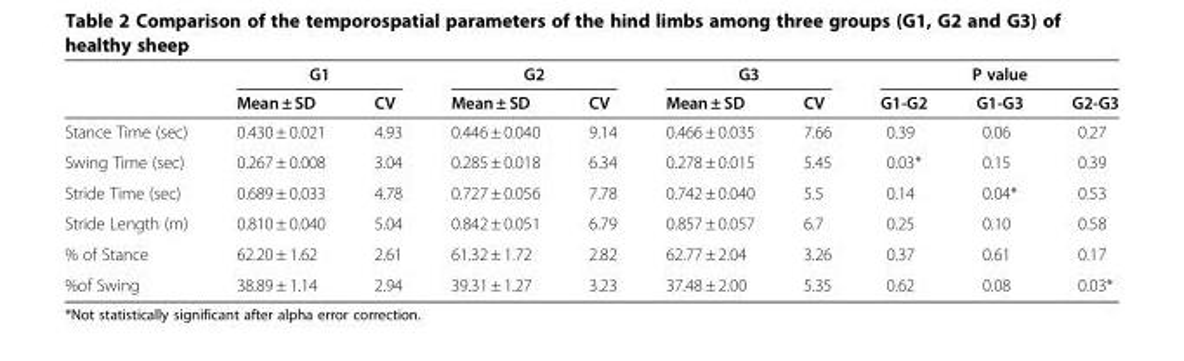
<table><thead><tr><td rowspan="2"></td><td colspan="2">G1</td><td colspan="2">G2</td><td colspan="2">G3</td><td colspan="3">P value</td></tr><tr><td>Mean ± SD</td><td>CV</td><td>Mean ± SD</td><td>CV</td><td>Mean ± SD</td><td>CV</td><td>G1-G2</td><td>G1-G3</td><td>G2-G3</td></tr></thead><tbody><tr><td>Stance Time (sec)</td><td>0.430 ± 0.021</td><td>4.93</td><td>0.446 ± 0.040</td><td>9.14</td><td>0.466 ± 0.035</td><td>7.66</td><td>0.39</td><td>0.06</td><td>0.27</td></tr><tr><td>Swing Time (sec)</td><td>0.267 ± 0.008</td><td>3.04</td><td>0.285 ± 0.018</td><td>6.34</td><td>0.278 ± 0.015</td><td>5.45</td><td>0.03*</td><td>0.15</td><td>0.39</td></tr><tr><td>Stride Time (sec)</td><td>0.689 ± 0.033</td><td>4.78</td><td>0.727 ± 0.056</td><td>7.78</td><td>0.742 ± 0.040</td><td>5.5</td><td>0.14</td><td>0.04*</td><td>0.53</td></tr><tr><td>Stride Length (m)</td><td>0.810 ± 0.040</td><td>5.04</td><td>0.842 ± 0.051</td><td>6.79</td><td>0.857 ± 0.057</td><td>6.7</td><td>0.25</td><td>0.10</td><td>0.58</td></tr><tr><td>% of Stance</td><td>62.20 ± 1.62</td><td>2.61</td><td>61.32 ± 1.72</td><td>2.82</td><td>62.77 ± 2.04</td><td>3.26</td><td>0.37</td><td>0.61</td><td>0.17</td></tr><tr><td>%of Swing</td><td>38.89 ± 1.14</td><td>2.94</td><td>39.31 ± 1.27</td><td>3.23</td><td>37.48 ± 2.00</td><td>5.35</td><td>0.62</td><td>0.08</td><td>0.03*</td></tr></tbody></table>